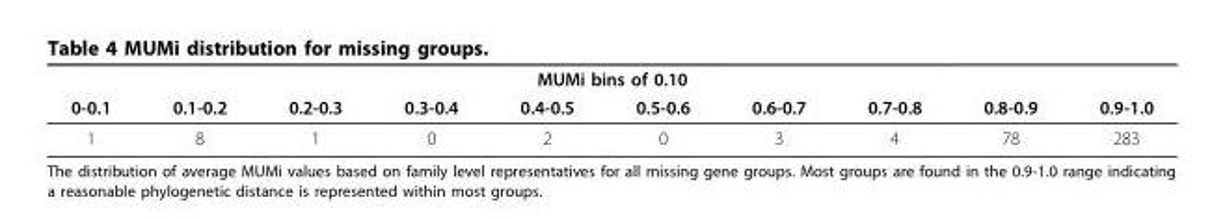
<table><thead><tr><td colspan="10">MUMi bins of 0.10</td></tr><tr><td>0-0.1</td><td>0.1-0.2</td><td>0.2-0.3</td><td>0.3-0.4</td><td>0.4-0.5</td><td>0.5-0.6</td><td>0.6-0.7</td><td>0.7-0.8</td><td>0.8-0.9</td><td>0.9-1.0</td></tr></thead><tbody><tr><td>1</td><td>8</td><td>1</td><td>0</td><td>2</td><td>0</td><td>3</td><td>4</td><td>78</td><td>283</td></tr></tbody></table>